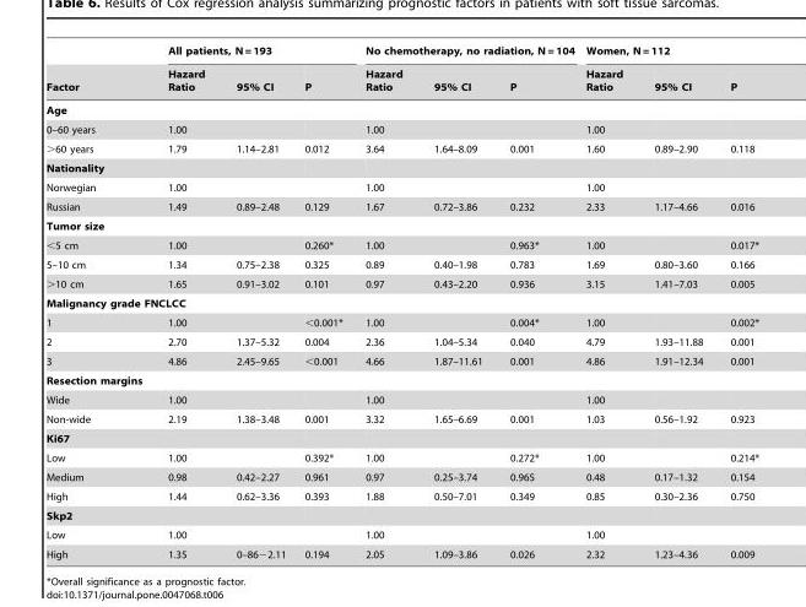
<table><thead><tr><td rowspan="2">Factor</td><td colspan="3">All patients, N = 193</td><td colspan="3">No chemotherapy, no radiation, N = 104</td><td colspan="3">Women, N = 112</td></tr><tr><td>Hazard Ratio</td><td>95% CI</td><td>P</td><td>Hazard Ratio</td><td>95% CI</td><td>P</td><td>Hazard Ratio</td><td>95% CI</td><td>P</td></tr></thead><tbody><tr><td colspan="10">Age</td></tr><tr><td>0–60 years</td><td>1.00</td><td></td><td></td><td>1.00</td><td></td><td></td><td>1.00</td><td></td><td></td></tr><tr><td>&gt;60 years</td><td>1.79</td><td>1.14–2.81</td><td>0.012</td><td>3.64</td><td>1.64–8.09</td><td>0.001</td><td>1.60</td><td>0.89–2.90</td><td>0.118</td></tr><tr><td colspan="10">Nationality</td></tr><tr><td>Norwegian</td><td>1.00</td><td></td><td></td><td>1.00</td><td></td><td></td><td>1.00</td><td></td><td></td></tr><tr><td>Russian</td><td>1.49</td><td>0.89–2.48</td><td>0.129</td><td>1.67</td><td>0.72–3.86</td><td>0.232</td><td>2.33</td><td>1.17–4.66</td><td>0.016</td></tr><tr><td colspan="10">Tumor size</td></tr><tr><td>&lt;5 cm</td><td>1.00</td><td></td><td>0.260*</td><td>1.00</td><td></td><td>0.963*</td><td>1.00</td><td></td><td>0.017*</td></tr><tr><td>5–10 cm</td><td>1.34</td><td>0.75–2.38</td><td>0.325</td><td>0.89</td><td>0.40–1.98</td><td>0.783</td><td>1.69</td><td>0.80–3.60</td><td>0.166</td></tr><tr><td>&gt;10 cm</td><td>1.65</td><td>0.91–3.02</td><td>0.101</td><td>0.97</td><td>0.43–2.20</td><td>0.936</td><td>3.15</td><td>1.41–7.03</td><td>0.005</td></tr><tr><td colspan="10">Malignancy grade FNCLCC</td></tr><tr><td>1</td><td>1.00</td><td></td><td>&lt;0.001*</td><td>1.00</td><td></td><td>0.004*</td><td>1.00</td><td></td><td>0.002*</td></tr><tr><td>2</td><td>2.70</td><td>1.37–5.32</td><td>0.004</td><td>2.36</td><td>1.04–5.34</td><td>0.040</td><td>4.79</td><td>1.93–11.88</td><td>0.001</td></tr><tr><td>3</td><td>4.86</td><td>2.45–9.65</td><td>&lt;0.001</td><td>4.66</td><td>1.87–11.61</td><td>0.001</td><td>4.86</td><td>1.91–12.34</td><td>0.001</td></tr><tr><td colspan="10">Resection margins</td></tr><tr><td>Wide</td><td>1.00</td><td></td><td></td><td>1.00</td><td></td><td></td><td>1.00</td><td></td><td></td></tr><tr><td>Non-wide</td><td>2.19</td><td>1.38–3.48</td><td>0.001</td><td>3.32</td><td>1.65–6.69</td><td>0.001</td><td>1.03</td><td>0.56–1.92</td><td>0.923</td></tr><tr><td colspan="10">Ki67</td></tr><tr><td>Low</td><td>1.00</td><td></td><td>0.392*</td><td>1.00</td><td></td><td>0.272*</td><td>1.00</td><td></td><td>0.214*</td></tr><tr><td>Medium</td><td>0.98</td><td>0.42–2.27</td><td>0.961</td><td>0.97</td><td>0.25–3.74</td><td>0.965</td><td>0.48</td><td>0.17–1.32</td><td>0.154</td></tr><tr><td>High</td><td>1.44</td><td>0.62–3.36</td><td>0.393</td><td>1.88</td><td>0.50–7.01</td><td>0.349</td><td>0.85</td><td>0.30–2.36</td><td>0.750</td></tr><tr><td colspan="10">Skp2</td></tr><tr><td>Low</td><td>1.00</td><td></td><td></td><td>1.00</td><td></td><td></td><td>1.00</td><td></td><td></td></tr><tr><td>High</td><td>1.35</td><td>0–86−2.11</td><td>0.194</td><td>2.05</td><td>1.09–3.86</td><td>0.026</td><td>2.32</td><td>1.23–4.36</td><td>0.009</td></tr></tbody></table>